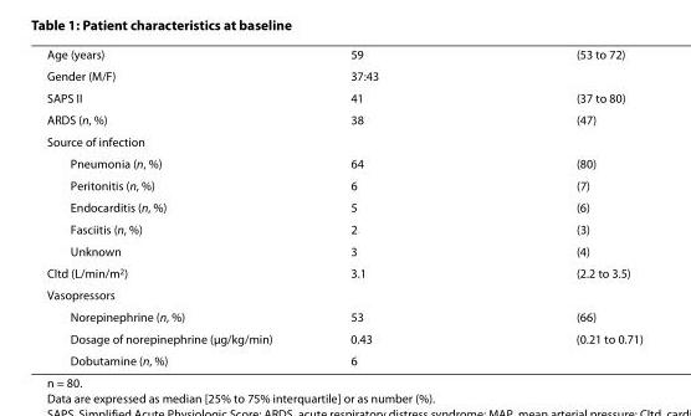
<table><tbody><tr><td>Age (years)</td><td>59</td><td>(53 to 72)</td></tr><tr><td>Gender (M/F)</td><td>37:43</td><td></td></tr><tr><td>SAPS II</td><td>41</td><td>(37 to 80)</td></tr><tr><td>ARDS (n, %)</td><td>38</td><td>(47)</td></tr><tr><td colspan="3">Source of infection</td></tr><tr><td>Pneumonia (n, %)</td><td>64</td><td>(80)</td></tr><tr><td>Peritonitis (n, %)</td><td>6</td><td>(7)</td></tr><tr><td>Endocarditis (n, %)</td><td>5</td><td>(6)</td></tr><tr><td>Fasciitis (n, %)</td><td>2</td><td>(3)</td></tr><tr><td>Unknown</td><td>3</td><td>(4)</td></tr><tr><td>CItd (L/min/m<sup>2</sup>)</td><td>3.1</td><td>(2.2 to 3.5)</td></tr><tr><td colspan="3">Vasopressors</td></tr><tr><td>Norepinephrine (n, %)</td><td>53</td><td>(66)</td></tr><tr><td>Dosage of norepinephrine (μg/kg/min)</td><td>0.43</td><td>(0.21 to 0.71)</td></tr><tr><td>Dobutamine (n, %)</td><td>6</td><td></td></tr></tbody></table>